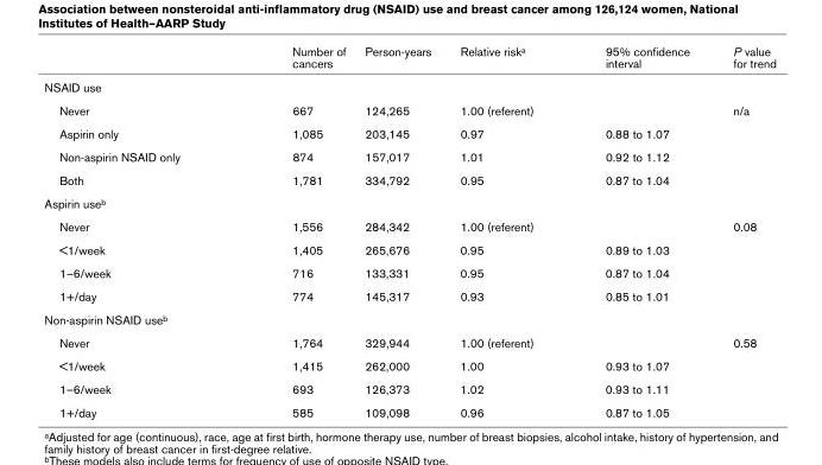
<table><thead><tr><td></td><td>Number of cancers</td><td>Person-years</td><td>Relative risk<sup>a</sup></td><td>95% confidence interval</td><td>P value for trend</td></tr></thead><tbody><tr><td colspan="6">NSAID use</td></tr><tr><td>Never</td><td>667</td><td>124,265</td><td>1.00 (referent)</td><td></td><td>n/a</td></tr><tr><td>Aspirin only</td><td>1,085</td><td>203,145</td><td>0.97</td><td>0.88 to 1.07</td><td></td></tr><tr><td>Non-aspirin NSAID only</td><td>874</td><td>157,017</td><td>1.01</td><td>0.92 to 1.12</td><td></td></tr><tr><td>Both</td><td>1,781</td><td>334,792</td><td>0.95</td><td>0.87 to 1.04</td><td></td></tr><tr><td colspan="6">Aspirin use<sup>b</sup></td></tr><tr><td>Never</td><td>1,556</td><td>284,342</td><td>1.00 (referent)</td><td></td><td>0.08</td></tr><tr><td>&lt;1/week</td><td>1,405</td><td>265,676</td><td>0.95</td><td>0.89 to 1.03</td><td></td></tr><tr><td>1–6/week</td><td>716</td><td>133,331</td><td>0.95</td><td>0.87 to 1.04</td><td></td></tr><tr><td>1+/day</td><td>774</td><td>145,317</td><td>0.93</td><td>0.85 to 1.01</td><td></td></tr><tr><td colspan="6">Non-aspirin NSAID use<sup>b</sup></td></tr><tr><td>Never</td><td>1,764</td><td>329,944</td><td>1.00 (referent)</td><td></td><td>0.58</td></tr><tr><td>&lt;1/week</td><td>1,415</td><td>262,000</td><td>1.00</td><td>0.93 to 1.07</td><td></td></tr><tr><td>1–6/week</td><td>693</td><td>126,373</td><td>1.02</td><td>0.93 to 1.11</td><td></td></tr><tr><td>1+/day</td><td>585</td><td>109,098</td><td>0.96</td><td>0.87 to 1.05</td><td></td></tr></tbody></table>